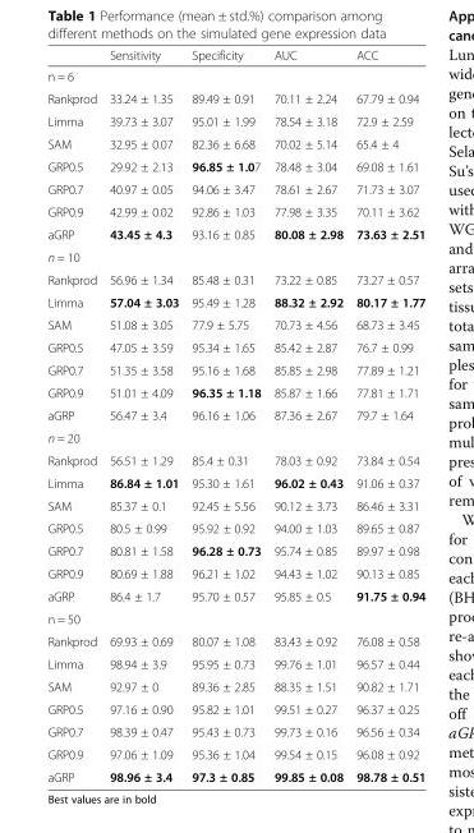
<table><thead><tr><td></td><td>Sensitivity</td><td>Specificity</td><td>AUC</td><td>ACC</td></tr></thead><tbody><tr><td colspan="5">n = 6</td></tr><tr><td>Rankprod</td><td>33.24 ± 1.35</td><td>89.49 ± 0.91</td><td>70.11 ± 2.24</td><td>67.79 ± 0.94</td></tr><tr><td>Limma</td><td>39.73 ± 3.07</td><td>95.01 ± 1.99</td><td>78.54 ± 3.18</td><td>72.9 ± 2.59</td></tr><tr><td>SAM</td><td>32.95 ± 0.07</td><td>82.36 ± 6.68</td><td>70.02 ± 5.14</td><td>65.4 ± 4</td></tr><tr><td>GRP0.5</td><td>29.92 ± 2.13</td><td>96.85 ± 1.07</td><td>78.48 ± 3.04</td><td>69.08 ± 1.61</td></tr><tr><td>GRP0.7</td><td>40.97 ± 0.05</td><td>94.06 ± 3.47</td><td>78.61 ± 2.67</td><td>71.73 ± 3.07</td></tr><tr><td>GRP0.9</td><td>42.99 ± 0.02</td><td>92.86 ± 1.03</td><td>77.98 ± 3.35</td><td>70.11 ± 3.62</td></tr><tr><td>aGRP</td><td>43.45 ± 4.3</td><td>93.16 ± 0.85</td><td>80.08 ± 2.98</td><td>73.63 ± 2.51</td></tr><tr><td colspan="5">n = 10</td></tr><tr><td>Rankprod</td><td>56.96 ± 1.34</td><td>85.48 ± 0.31</td><td>73.22 ± 0.85</td><td>73.27 ± 0.57</td></tr><tr><td>Limma</td><td>57.04 ± 3.03</td><td>95.49 ± 1.28</td><td>88.32 ± 2.92</td><td>80.17 ± 1.77</td></tr><tr><td>SAM</td><td>51.08 ± 3.05</td><td>77.9 ± 5.75</td><td>70.73 ± 4.56</td><td>68.73 ± 3.45</td></tr><tr><td>GRP0.5</td><td>47.05 ± 3.59</td><td>95.34 ± 1.65</td><td>85.42 ± 2.87</td><td>76.7 ± 0.99</td></tr><tr><td>GRP0.7</td><td>51.35 ± 3.58</td><td>95.16 ± 1.68</td><td>85.85 ± 2.98</td><td>77.89 ± 1.21</td></tr><tr><td>GRP0.9</td><td>51.01 ± 4.09</td><td>96.35 ± 1.18</td><td>85.87 ± 1.66</td><td>77.81 ± 1.71</td></tr><tr><td>aGRP</td><td>56.47 ± 3.4</td><td>96.16 ± 1.06</td><td>87.36 ± 2.67</td><td>79.7 ± 1.64</td></tr><tr><td colspan="5">n = 20</td></tr><tr><td>Rankprod</td><td>56.51 ± 1.29</td><td>85.4 ± 0.31</td><td>78.03 ± 0.92</td><td>73.84 ± 0.54</td></tr><tr><td>Limma</td><td>86.84 ± 1.01</td><td>95.30 ± 1.61</td><td>96.02 ± 0.43</td><td>91.06 ± 0.37</td></tr><tr><td>SAM</td><td>85.37 ± 0.1</td><td>92.45 ± 5.56</td><td>90.12 ± 3.73</td><td>86.46 ± 3.31</td></tr><tr><td>GRP0.5</td><td>80.5 ± 0.99</td><td>95.92 ± 0.92</td><td>94.00 ± 1.03</td><td>89.65 ± 0.87</td></tr><tr><td>GRP0.7</td><td>80.81 ± 1.58</td><td>96.28 ± 0.73</td><td>95.74 ± 0.85</td><td>89.97 ± 0.98</td></tr><tr><td>GRP0.9</td><td>80.69 ± 1.88</td><td>96.21 ± 1.02</td><td>94.43 ± 1.02</td><td>90.13 ± 0.85</td></tr><tr><td>aGRP</td><td>86.4 ± 1.7</td><td>95.70 ± 0.57</td><td>95.85 ± 0.5</td><td>91.75 ± 0.94</td></tr><tr><td colspan="5">n = 50</td></tr><tr><td>Rankprod</td><td>69.93 ± 0.69</td><td>80.07 ± 1.08</td><td>83.43 ± 0.92</td><td>76.08 ± 0.58</td></tr><tr><td>Limma</td><td>98.94 ± 3.9</td><td>95.95 ± 0.73</td><td>99.76 ± 1.01</td><td>96.57 ± 0.44</td></tr><tr><td>SAM</td><td>92.97 ± 0</td><td>89.36 ± 2.85</td><td>88.35 ± 1.51</td><td>90.82 ± 1.71</td></tr><tr><td>GRP0.5</td><td>97.16 ± 0.90</td><td>95.82 ± 1.01</td><td>99.51 ± 0.27</td><td>96.37 ± 0.25</td></tr><tr><td>GRP0.7</td><td>98.39 ± 0.47</td><td>95.43 ± 0.73</td><td>99.73 ± 0.16</td><td>96.56 ± 0.34</td></tr><tr><td>GRP0.9</td><td>97.06 ± 1.09</td><td>95.36 ± 1.04</td><td>99.54 ± 0.15</td><td>96.08 ± 0.92</td></tr><tr><td>aGRP</td><td>98.96 ± 3.4</td><td>97.3 ± 0.85</td><td>99.85 ± 0.08</td><td>98.78 ± 0.51</td></tr></tbody></table>